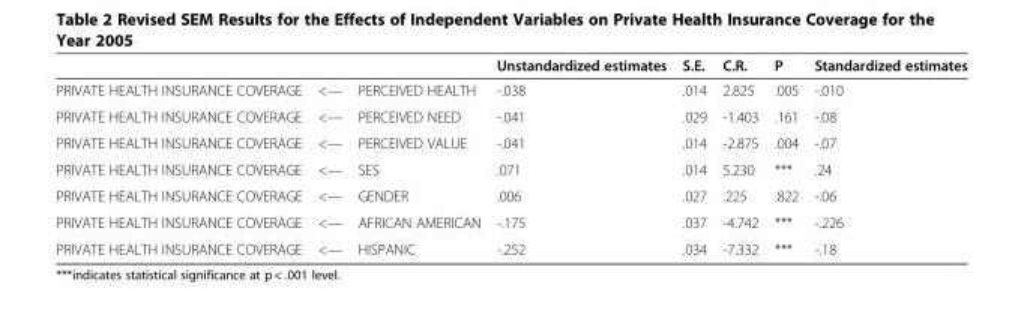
<table><thead><tr><td></td><td></td><td></td><td>Unstandardized estimates</td><td>S.E.</td><td>C.R.</td><td>P</td><td>Standardized estimates</td></tr></thead><tbody><tr><td>PRIVATE HEALTH INSURANCE COVERAGE</td><td>&lt;—</td><td>PERCEIVED HEALTH</td><td>-.038</td><td>.014</td><td>2.825</td><td>.005</td><td>-.010</td></tr><tr><td>PRIVATE HEALTH INSURANCE COVERAGE</td><td>&lt;—</td><td>PERCEIVED NEED</td><td>-.041</td><td>.029</td><td>-1.403</td><td>.161</td><td>-.08</td></tr><tr><td>PRIVATE HEALTH INSURANCE COVERAGE</td><td>&lt;—</td><td>PERCEIVED VALUE</td><td>-.041</td><td>.014</td><td>-2.875</td><td>.004</td><td>-.07</td></tr><tr><td>PRIVATE HEALTH INSURANCE COVERAGE</td><td>&lt;—</td><td>SES</td><td>.071</td><td>.014</td><td>5.230</td><td>***</td><td>.24</td></tr><tr><td>PRIVATE HEALTH INSURANCE COVERAGE</td><td>&lt;—</td><td>GENDER</td><td>.006</td><td>.027</td><td>.225</td><td>.822</td><td>-.06</td></tr><tr><td>PRIVATE HEALTH INSURANCE COVERAGE</td><td>&lt;—</td><td>AFRICAN AMERICAN</td><td>-.175</td><td>.037</td><td>-4.742</td><td>***</td><td>-.226</td></tr><tr><td>PRIVATE HEALTH INSURANCE COVERAGE</td><td>&lt;—</td><td>HISPANIC</td><td>-.252</td><td>.034</td><td>-7.332</td><td>***</td><td>-.18</td></tr></tbody></table>